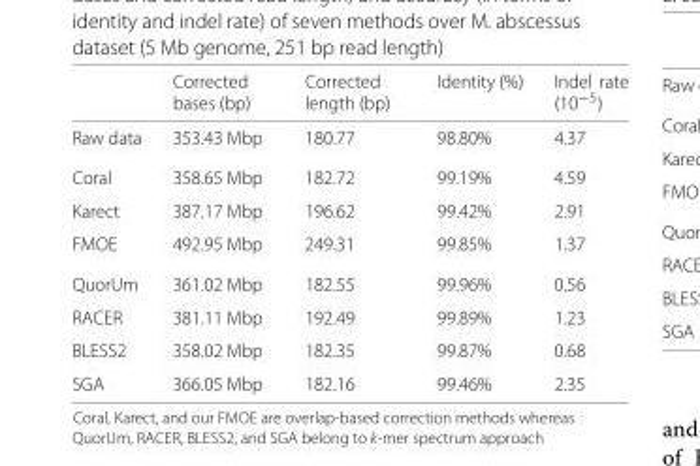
<table><thead><tr><td></td><td>Corrected bases (bp)</td><td>Corrected length (bp)</td><td>Identity (%)</td><td>Indel rate (10<sup>−5</sup>)</td></tr></thead><tbody><tr><td>Raw data</td><td>353.43 Mbp</td><td>180.77</td><td>98.80%</td><td>4.37</td></tr><tr><td>Coral</td><td>358.65 Mbp</td><td>182.72</td><td>99.19%</td><td>4.59</td></tr><tr><td>Karect</td><td>387.17 Mbp</td><td>196.62</td><td>99.42%</td><td>2.91</td></tr><tr><td>FMOE</td><td>492.95 Mbp</td><td>249.31</td><td>99.85%</td><td>1.37</td></tr><tr><td>QuorUm</td><td>361.02 Mbp</td><td>182.55</td><td>99.96%</td><td>0.56</td></tr><tr><td>RACER</td><td>381.11 Mbp</td><td>192.49</td><td>99.89%</td><td>1.23</td></tr><tr><td>BLESS2</td><td>358.02 Mbp</td><td>182.35</td><td>99.87%</td><td>0.68</td></tr><tr><td>SGA</td><td>366.05 Mbp</td><td>182.16</td><td>99.46%</td><td>2.35</td></tr></tbody></table>